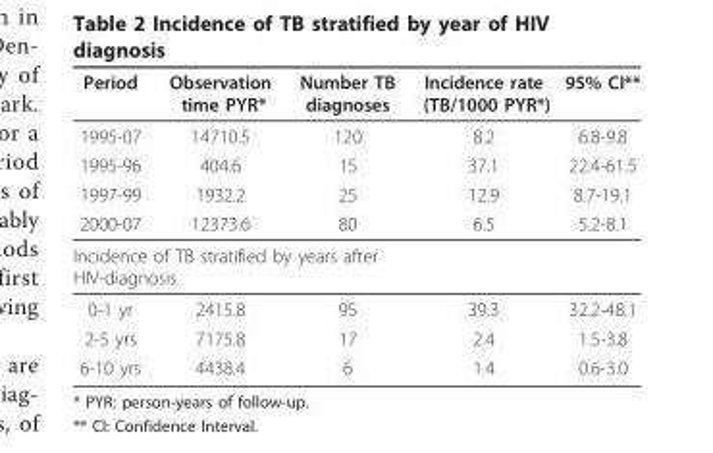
<table><thead><tr><td>Period</td><td>Observation time PYR*</td><td>Number TB diagnoses</td><td>Incidence rate (TB/1000 PYR*)</td><td>95% CI**</td></tr></thead><tbody><tr><td>1995-07</td><td>14710.5</td><td>120</td><td>8.2</td><td>6.8-9.8</td></tr><tr><td>1995-96</td><td>404.6</td><td>15</td><td>37.1</td><td>22.4-61.5</td></tr><tr><td>1997-99</td><td>1932.2</td><td>25</td><td>12.9</td><td>8.7-19.1</td></tr><tr><td>2000-07</td><td>12373.6</td><td>80</td><td>6.5</td><td>5.2-8.1</td></tr><tr><td colspan="5">Incidence of TB stratified by years after HIV-diagnosis</td></tr><tr><td>0-1 yr</td><td>2415.8</td><td>95</td><td>39.3</td><td>32.2-48.1</td></tr><tr><td>2-5 yrs</td><td>7175.8</td><td>17</td><td>2.4</td><td>1.5-3.8</td></tr><tr><td>6-10 yrs</td><td>4438.4</td><td>6</td><td>1.4</td><td>0.6-3.0</td></tr></tbody></table>